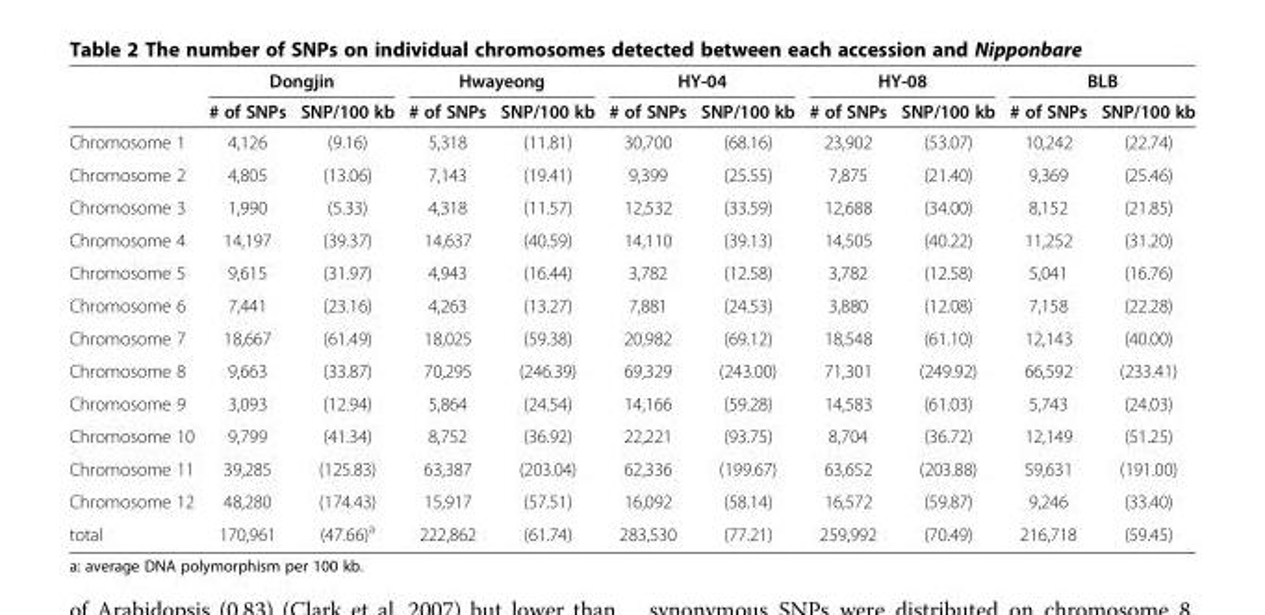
<table><thead><tr><td rowspan="2"></td><td colspan="2">Dongjin</td><td colspan="2">Hwayeong</td><td colspan="2">HY-04</td><td colspan="2">HY-08</td><td colspan="2">BLB</td></tr><tr><td># of SNPs</td><td>SNP/100 kb</td><td># of SNPs</td><td>SNP/100 kb</td><td># of SNPs</td><td>SNP/100 kb</td><td># of SNPs</td><td>SNP/100 kb</td><td># of SNPs</td><td>SNP/100 kb</td></tr></thead><tbody><tr><td>Chromosome 1</td><td>4,126</td><td>(9.16)</td><td>5,318</td><td>(11.81)</td><td>30,700</td><td>(68.16)</td><td>23,902</td><td>(53.07)</td><td>10,242</td><td>(22.74)</td></tr><tr><td>Chromosome 2</td><td>4,805</td><td>(13.06)</td><td>7,143</td><td>(19.41)</td><td>9,399</td><td>(25.55)</td><td>7,875</td><td>(21.40)</td><td>9,369</td><td>(25.46)</td></tr><tr><td>Chromosome 3</td><td>1,990</td><td>(5.33)</td><td>4,318</td><td>(11.57)</td><td>12,532</td><td>(33.59)</td><td>12,688</td><td>(34.00)</td><td>8,152</td><td>(21.85)</td></tr><tr><td>Chromosome 4</td><td>14,197</td><td>(39.37)</td><td>14,637</td><td>(40.59)</td><td>14,110</td><td>(39.13)</td><td>14,505</td><td>(40.22)</td><td>11,252</td><td>(31.20)</td></tr><tr><td>Chromosome 5</td><td>9,615</td><td>(31.97)</td><td>4,943</td><td>(16.44)</td><td>3,782</td><td>(12.58)</td><td>3,782</td><td>(12.58)</td><td>5,041</td><td>(16.76)</td></tr><tr><td>Chromosome 6</td><td>7,441</td><td>(23.16)</td><td>4,263</td><td>(13.27)</td><td>7,881</td><td>(24.53)</td><td>3,880</td><td>(12.08)</td><td>7,158</td><td>(22.28)</td></tr><tr><td>Chromosome 7</td><td>18,667</td><td>(61.49)</td><td>18,025</td><td>(59.38)</td><td>20,982</td><td>(69.12)</td><td>18,548</td><td>(61.10)</td><td>12,143</td><td>(40.00)</td></tr><tr><td>Chromosome 8</td><td>9,663</td><td>(33.87)</td><td>70,295</td><td>(246.39)</td><td>69,329</td><td>(243.00)</td><td>71,301</td><td>(249.92)</td><td>66,592</td><td>(233.41)</td></tr><tr><td>Chromosome 9</td><td>3,093</td><td>(12.94)</td><td>5,864</td><td>(24.54)</td><td>14,166</td><td>(59.28)</td><td>14,583</td><td>(61.03)</td><td>5,743</td><td>(24.03)</td></tr><tr><td>Chromosome 10</td><td>9,799</td><td>(41.34)</td><td>8,752</td><td>(36.92)</td><td>22,221</td><td>(93.75)</td><td>8,704</td><td>(36.72)</td><td>12,149</td><td>(51.25)</td></tr><tr><td>Chromosome 11</td><td>39,285</td><td>(125.83)</td><td>63,387</td><td>(203.04)</td><td>62,336</td><td>(199.67)</td><td>63,652</td><td>(203.88)</td><td>59,631</td><td>(191.00)</td></tr><tr><td>Chromosome 12</td><td>48,280</td><td>(174.43)</td><td>15,917</td><td>(57.51)</td><td>16,092</td><td>(58.14)</td><td>16,572</td><td>(59.87)</td><td>9,246</td><td>(33.40)</td></tr><tr><td>total</td><td>170,961</td><td>(47.66)<sup>a</sup></td><td>222,862</td><td>(61.74)</td><td>283,530</td><td>(77.21)</td><td>259,992</td><td>(70.49)</td><td>216,718</td><td>(59.45)</td></tr></tbody></table>